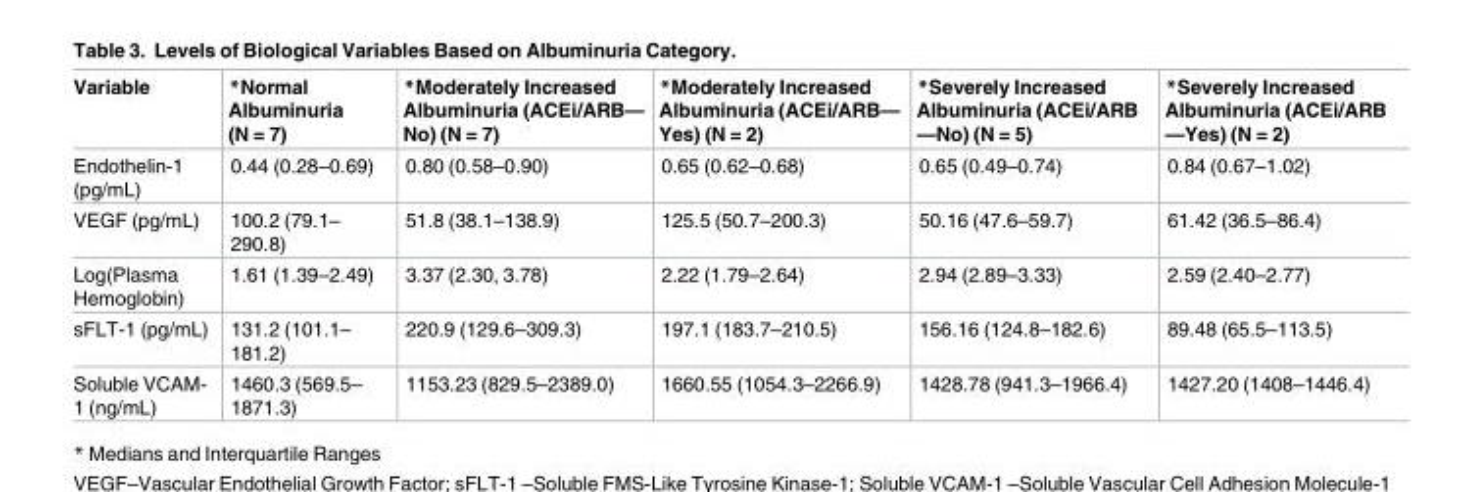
<table><thead><tr><td>Variable</td><td>*Normal Albuminuria (N = 7)</td><td>*Moderately Increased Albuminuria (ACEi/ARB— No) (N = 7)</td><td>*Moderately Increased Albuminuria (ACEi/ARB— Yes) (N = 2)</td><td>*Severely Increased Albuminuria (ACEi/ARB —No) (N = 5)</td><td>*Severely Increased Albuminuria (ACEi/ARB —Yes) (N = 2)</td></tr></thead><tbody><tr><td>Endothelin-1 (pg/mL)</td><td>0.44 (0.28–0.69)</td><td>0.80 (0.58–0.90)</td><td>0.65 (0.62–0.68)</td><td>0.65 (0.49–0.74)</td><td>0.84 (0.67–1.02)</td></tr><tr><td>VEGF (pg/mL)</td><td>100.2 (79.1– 290.8)</td><td>51.8 (38.1–138.9)</td><td>125.5 (50.7–200.3)</td><td>50.16 (47.6–59.7)</td><td>61.42 (36.5–86.4)</td></tr><tr><td>Log(Plasma Hemoglobin)</td><td>1.61 (1.39–2.49)</td><td>3.37 (2.30, 3.78)</td><td>2.22 (1.79–2.64)</td><td>2.94 (2.89–3.33)</td><td>2.59 (2.40–2.77)</td></tr><tr><td>sFLT-1 (pg/mL)</td><td>131.2 (101.1– 181.2)</td><td>220.9 (129.6–309.3)</td><td>197.1 (183.7–210.5)</td><td>156.16 (124.8–182.6)</td><td>89.48 (65.5–113.5)</td></tr><tr><td>Soluble VCAM- 1 (ng/mL)</td><td>1460.3 (569.5– 1871.3)</td><td>1153.23 (829.5–2389.0)</td><td>1660.55 (1054.3–2266.9)</td><td>1428.78 (941.3–1966.4)</td><td>1427.20 (1408–1446.4)</td></tr></tbody></table>